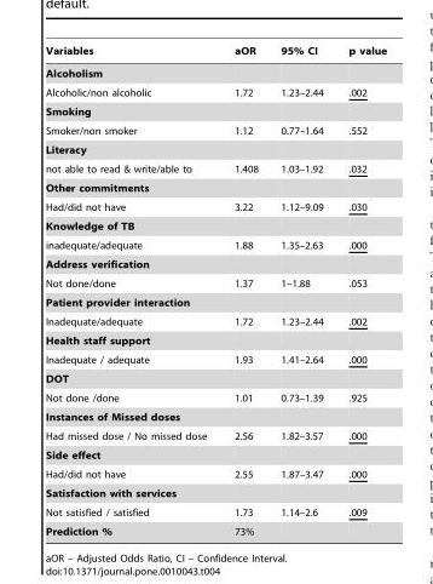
<table><thead><tr><td>Variables</td><td>aOR</td><td>95% CI</td><td>p value</td></tr></thead><tbody><tr><td colspan="4">Alcoholism</td></tr><tr><td>Alcoholic/non alcoholic</td><td>1.72</td><td>1.23–2.44</td><td>.002</td></tr><tr><td colspan="4">Smoking</td></tr><tr><td>Smoker/non smoker</td><td>1.12</td><td>0.77–1.64</td><td>.552</td></tr><tr><td colspan="4">Literacy</td></tr><tr><td>not able to read &amp; write/able to</td><td>1.408</td><td>1.03–1.92</td><td>.032</td></tr><tr><td colspan="4">Other commitments</td></tr><tr><td>Had/did not have</td><td>3.22</td><td>1.12–9.09</td><td>.030</td></tr><tr><td colspan="4">Knowledge of TB</td></tr><tr><td>inadequate/adequate</td><td>1.88</td><td>1.35–2.63</td><td>.000</td></tr><tr><td colspan="4">Address verification</td></tr><tr><td>Not done/done</td><td>1.37</td><td>1–1.88</td><td>.053</td></tr><tr><td colspan="4">Patient provider interaction</td></tr><tr><td>Inadequate/adequate</td><td>1.72</td><td>1.23–2.44</td><td>.002</td></tr><tr><td colspan="4">Health staff support</td></tr><tr><td>Inadequate / adequate</td><td>1.93</td><td>1.41–2.64</td><td>.000</td></tr><tr><td colspan="4">DOT</td></tr><tr><td>Not done /done</td><td>1.01</td><td>0.73–1.39</td><td>.925</td></tr><tr><td colspan="4">Instances of Missed doses</td></tr><tr><td>Had missed dose / No missed dose</td><td>2.56</td><td>1.82–3.57</td><td>.000</td></tr><tr><td colspan="4">Side effect</td></tr><tr><td>Had/did not have</td><td>2.55</td><td>1.87–3.47</td><td>.000</td></tr><tr><td colspan="4">Satisfaction with services</td></tr><tr><td>Not satisfied / satisfied</td><td>1.73</td><td>1.14–2.6</td><td>.009</td></tr><tr><td>Prediction %</td><td>73%</td><td></td><td></td></tr></tbody></table>